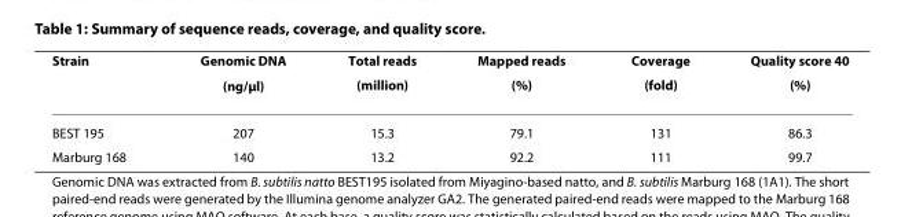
<table><thead><tr><td rowspan="2">Strain</td><td rowspan="2">Genomic DNA (ng/μl)</td><td rowspan="2">Total reads (million)</td><td rowspan="2">Mapped reads (%)</td><td rowspan="2">Coverage (fold)</td><td rowspan="2">Quality score 40 (%)</td></tr><tr></tr></thead><tbody><tr><td>BEST 195</td><td>207</td><td>15.3</td><td>79.1</td><td>131</td><td>86.3</td></tr><tr><td>Marburg 168</td><td>140</td><td>13.2</td><td>92.2</td><td>111</td><td>99.7</td></tr></tbody></table>